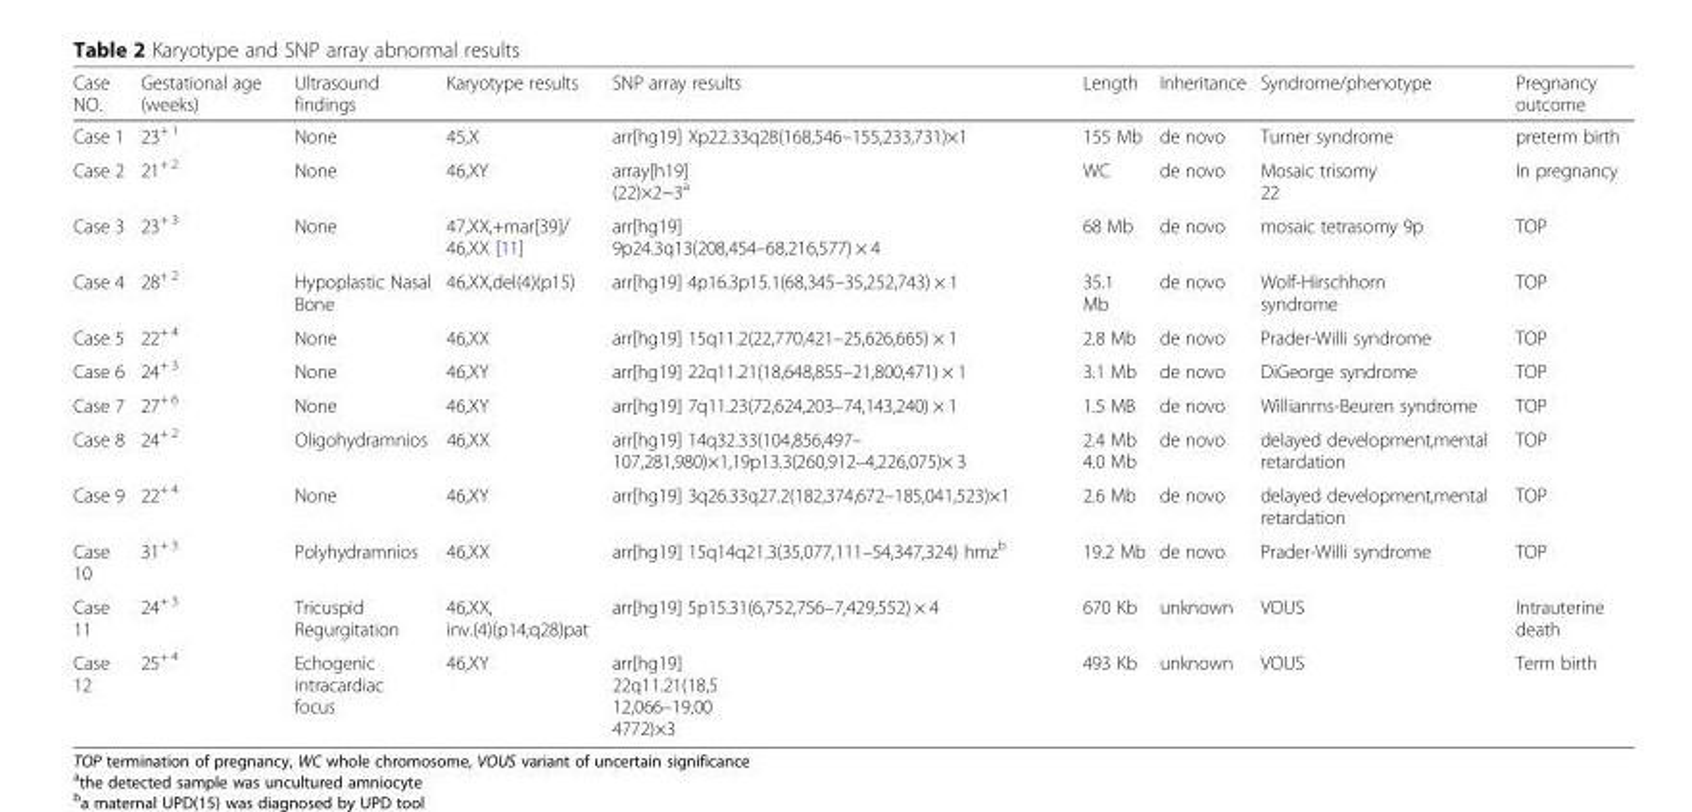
<table><thead><tr><td>Case NO.</td><td>Gestational age (weeks)</td><td>Ultrasound findings</td><td>Karyotype results</td><td>SNP array results</td><td>Length</td><td>Inheritance</td><td>Syndrome/phenotype</td><td>Pregnancy outcome</td></tr></thead><tbody><tr><td>Case 1</td><td>23<sup>+ 1</sup></td><td>None</td><td>45,X</td><td>arr[hg19] Xp22.33q28(168,546–155,233,731)×1</td><td>155 Mb</td><td>de novo</td><td>Turner syndrome</td><td>preterm birth</td></tr><tr><td>Case 2</td><td>21<sup>+ 2</sup></td><td>None</td><td>46,XY</td><td>array[h19] (22)×2~3<sup>a</sup></td><td>WC</td><td>de novo</td><td>Mosaic trisomy 22</td><td>In pregnancy</td></tr><tr><td>Case 3</td><td>23<sup>+ 3</sup></td><td>None</td><td>47,XX,+mar[39]/ 46,XX [11]</td><td>arr[hg19] 9p24.3q13(208,454–68,216,577) × 4</td><td>68 Mb</td><td>de novo</td><td>mosaic tetrasomy 9p</td><td>TOP</td></tr><tr><td>Case 4</td><td>28<sup>+ 2</sup></td><td>Hypoplastic Nasal Bone</td><td>46,XX,del(4)(p15)</td><td>arr[hg19] 4p16.3p15.1(68,345–35,252,743) × 1</td><td>35.1 Mb</td><td>de novo</td><td>Wolf-Hirschhorn syndrome</td><td>TOP</td></tr><tr><td>Case 5</td><td>22<sup>+ 4</sup></td><td>None</td><td>46,XX</td><td>arr[hg19] 15q11.2(22,770,421–25,626,665) × 1</td><td>2.8 Mb</td><td>de novo</td><td>Prader-Willi syndrome</td><td>TOP</td></tr><tr><td>Case 6</td><td>24<sup>+ 3</sup></td><td>None</td><td>46,XY</td><td>arr[hg19] 22q11.21(18,648,855–21,800,471) × 1</td><td>3.1 Mb</td><td>de novo</td><td>DiGeorge syndrome</td><td>TOP</td></tr><tr><td>Case 7</td><td>27<sup>+ 6</sup></td><td>None</td><td>46,XY</td><td>arr[hg19] 7q11.23(72,624,203–74,143,240) × 1</td><td>1.5 MB</td><td>de novo</td><td>Willianms-Beuren syndrome</td><td>TOP</td></tr><tr><td>Case 8</td><td>24<sup>+ 2</sup></td><td>Oligohydramnios</td><td>46,XX</td><td>arr[hg19] 14q32.33(104,856,497– 107,281,980)×1,19p13.3(260,912–4,226,075)× 3</td><td>2.4 Mb 4.0 Mb</td><td>de novo</td><td>delayed development,mental retardation</td><td>TOP</td></tr><tr><td>Case 9</td><td>22<sup>+ 4</sup></td><td>None</td><td>46,XY</td><td>arr[hg19] 3q26.33q27.2(182,374,672–185,041,523)×1</td><td>2.6 Mb</td><td>de novo</td><td>delayed development,mental retardation</td><td>TOP</td></tr><tr><td>Case 10</td><td>31<sup>+ 3</sup></td><td>Polyhydramnios</td><td>46,XX</td><td>arr[hg19] 15q14q21.3(35,077,111–54,347,324) hmz<sup>b</sup></td><td>19.2 Mb</td><td>de novo</td><td>Prader-Willi syndrome</td><td>TOP</td></tr><tr><td>Case 11</td><td>24<sup>+ 3</sup></td><td>Tricuspid Regurgitation</td><td>46,XX, inv.(4)(p14;q28)pat</td><td>arr[hg19] 5p15.31(6,752,756–7,429,552) × 4</td><td>670 Kb</td><td>unknown</td><td>VOUS</td><td>Intrauterine death</td></tr><tr><td>Case 12</td><td>25<sup>+ 4</sup></td><td>Echogenic intracardiac focus</td><td>46,XY</td><td>arr[hg19] 22q11.21(18,5 12,066–19,00 4772)×3</td><td>493 Kb</td><td>unknown</td><td>VOUS</td><td>Term birth</td></tr></tbody></table>